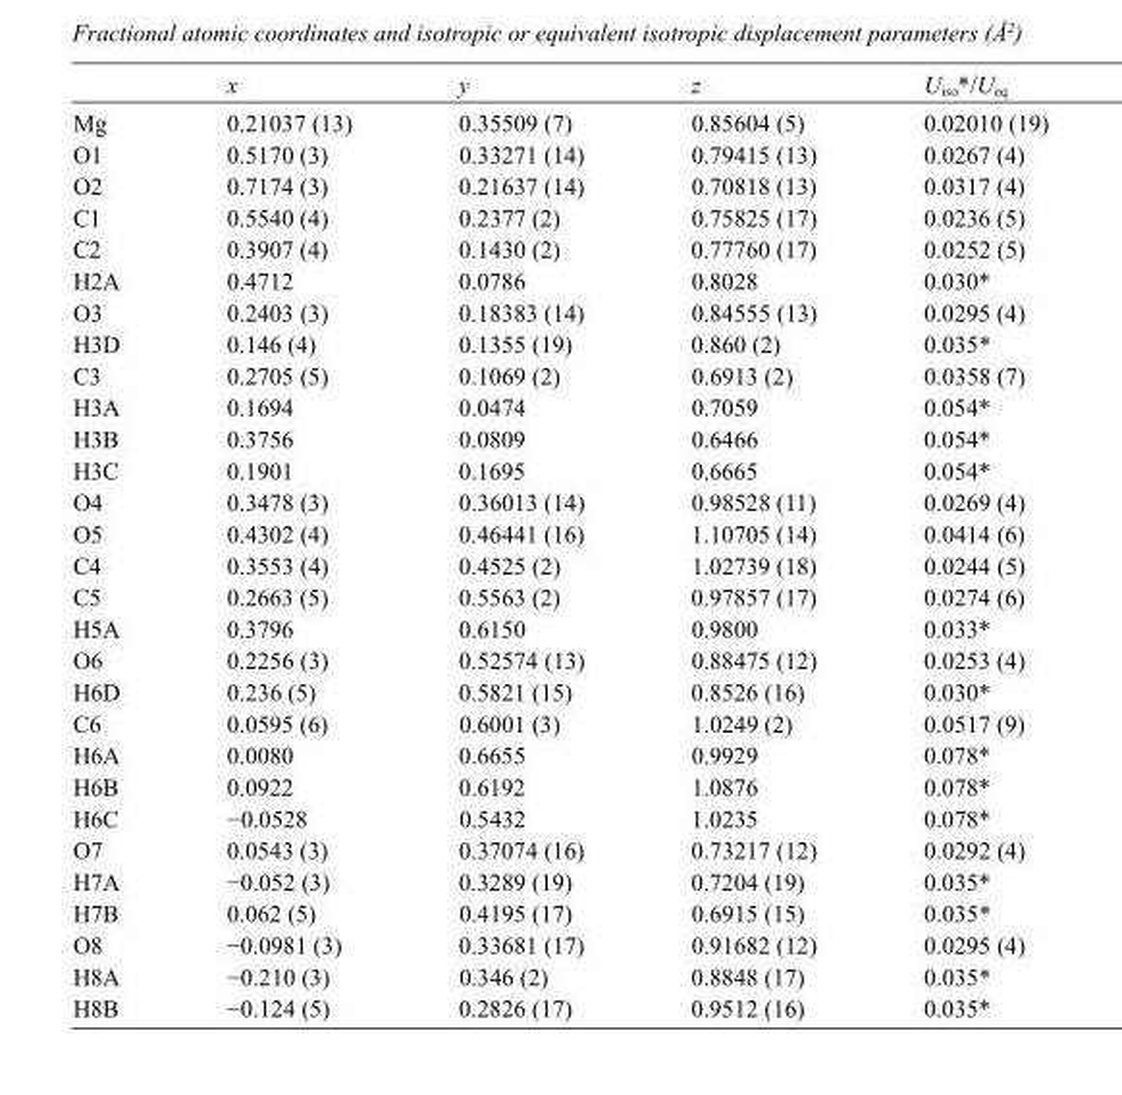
<table><thead><tr><td></td><td>x</td><td>y</td><td>z</td><td>U<sub>iso</sub>*/U<sub>eq</sub></td></tr></thead><tbody><tr><td>Mg</td><td>0.21037 (13)</td><td>0.35509 (7)</td><td>0.85604 (5)</td><td>0.02010 (19)</td></tr><tr><td>O1</td><td>0.5170 (3)</td><td>0.33271 (14)</td><td>0.79415 (13)</td><td>0.0267 (4)</td></tr><tr><td>O2</td><td>0.7174 (3)</td><td>0.21637 (14)</td><td>0.70818 (13)</td><td>0.0317 (4)</td></tr><tr><td>C1</td><td>0.5540 (4)</td><td>0.2377 (2)</td><td>0.75825 (17)</td><td>0.0236 (5)</td></tr><tr><td>C2</td><td>0.3907 (4)</td><td>0.1430 (2)</td><td>0.77760 (17)</td><td>0.0252 (5)</td></tr><tr><td>H2A</td><td>0.4712</td><td>0.0786</td><td>0.8028</td><td>0.030*</td></tr><tr><td>O3</td><td>0.2403 (3)</td><td>0.18383 (14)</td><td>0.84555 (13)</td><td>0.0295 (4)</td></tr><tr><td>H3D</td><td>0.146 (4)</td><td>0.1355 (19)</td><td>0.860 (2)</td><td>0.035*</td></tr><tr><td>C3</td><td>0.2705 (5)</td><td>0.1069 (2)</td><td>0.6913 (2)</td><td>0.0358 (7)</td></tr><tr><td>H3A</td><td>0.1694</td><td>0.0474</td><td>0.7059</td><td>0.054*</td></tr><tr><td>H3B</td><td>0.3756</td><td>0.0809</td><td>0.6466</td><td>0.054*</td></tr><tr><td>H3C</td><td>0.1901</td><td>0.1695</td><td>0.6665</td><td>0.054*</td></tr><tr><td>O4</td><td>0.3478 (3)</td><td>0.36013 (14)</td><td>0.98528 (11)</td><td>0.0269 (4)</td></tr><tr><td>O5</td><td>0.4302 (4)</td><td>0.46441 (16)</td><td>1.10705 (14)</td><td>0.0414 (6)</td></tr><tr><td>C4</td><td>0.3553 (4)</td><td>0.4525 (2)</td><td>1.02739 (18)</td><td>0.0244 (5)</td></tr><tr><td>C5</td><td>0.2663 (5)</td><td>0.5563 (2)</td><td>0.97857 (17)</td><td>0.0274 (6)</td></tr><tr><td>H5A</td><td>0.3796</td><td>0.6150</td><td>0.9800</td><td>0.033*</td></tr><tr><td>O6</td><td>0.2256 (3)</td><td>0.52574 (13)</td><td>0.88475 (12)</td><td>0.0253 (4)</td></tr><tr><td>H6D</td><td>0.236 (5)</td><td>0.5821 (15)</td><td>0.8526 (16)</td><td>0.030*</td></tr><tr><td>C6</td><td>0.0595 (6)</td><td>0.6001 (3)</td><td>1.0249 (2)</td><td>0.0517 (9)</td></tr><tr><td>H6A</td><td>0.0080</td><td>0.6655</td><td>0.9929</td><td>0.078*</td></tr><tr><td>H6B</td><td>0.0922</td><td>0.6192</td><td>1.0876</td><td>0.078*</td></tr><tr><td>H6C</td><td>−0.0528</td><td>0.5432</td><td>1.0235</td><td>0.078*</td></tr><tr><td>O7</td><td>0.0543 (3)</td><td>0.37074 (16)</td><td>0.73217 (12)</td><td>0.0292 (4)</td></tr><tr><td>H7A</td><td>−0.052 (3)</td><td>0.3289 (19)</td><td>0.7204 (19)</td><td>0.035*</td></tr><tr><td>H7B</td><td>0.062 (5)</td><td>0.4195 (17)</td><td>0.6915 (15)</td><td>0.035*</td></tr><tr><td>O8</td><td>−0.0981 (3)</td><td>0.33681 (17)</td><td>0.91682 (12)</td><td>0.0295 (4)</td></tr><tr><td>H8A</td><td>−0.210 (3)</td><td>0.346 (2)</td><td>0.8848 (17)</td><td>0.035*</td></tr><tr><td>H8B</td><td>−0.124 (5)</td><td>0.2826 (17)</td><td>0.9512 (16)</td><td>0.035*</td></tr></tbody></table>